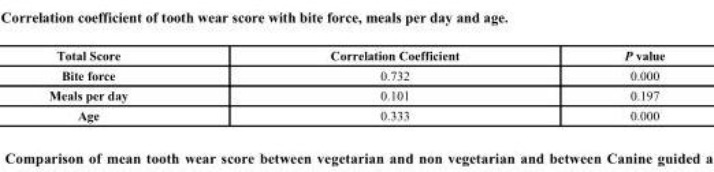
<table><thead><tr><td>Total Score</td><td>Correlation Coefficient</td><td>P value</td></tr></thead><tbody><tr><td>Bite force</td><td>0.732</td><td>0.000</td></tr><tr><td>Meals per day</td><td>0.101</td><td>0.197</td></tr><tr><td>Age</td><td>0.333</td><td>0.000</td></tr></tbody></table>